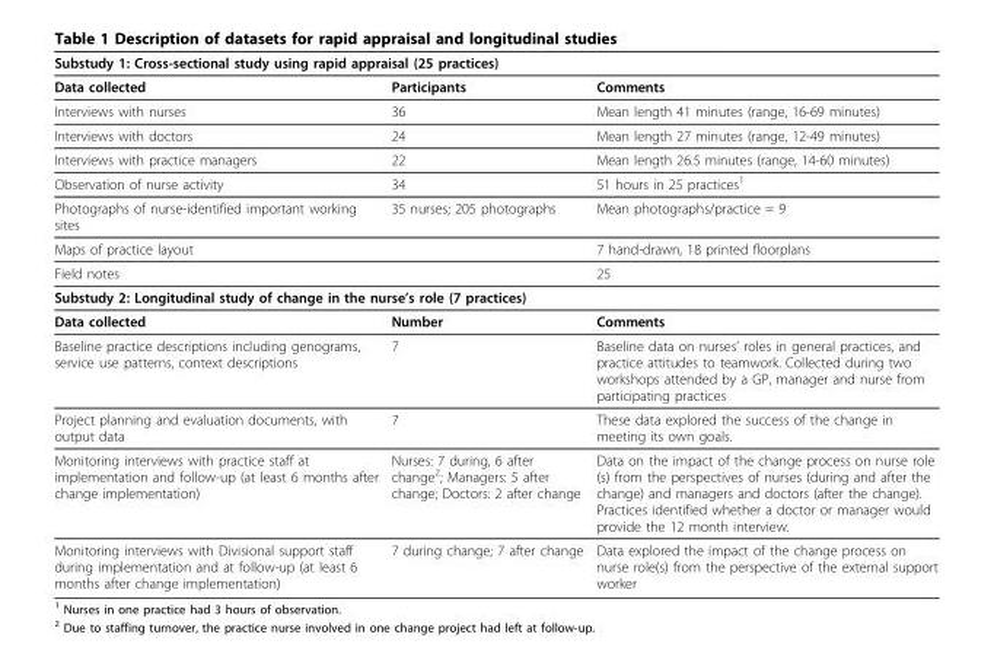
<table><thead><tr><td colspan="3">Substudy 1: Cross-sectional study using rapid appraisal (25 practices)</td></tr><tr><td>Data collected</td><td>Participants</td><td>Comments</td></tr></thead><tbody><tr><td>Interviews with nurses</td><td>36</td><td>Mean length 41 minutes (range, 16-69 minutes)</td></tr><tr><td>Interviews with doctors</td><td>24</td><td>Mean length 27 minutes (range, 12-49 minutes)</td></tr><tr><td>Interviews with practice managers</td><td>22</td><td>Mean length 26.5 minutes (range, 14-60 minutes)</td></tr><tr><td>Observation of nurse activity</td><td>34</td><td>51 hours in 25 practices<sup>1</sup></td></tr><tr><td>Photographs of nurse-identified important working sites</td><td>35 nurses; 205 photographs</td><td>Mean photographs/practice = 9</td></tr><tr><td>Maps of practice layout</td><td></td><td>7 hand-drawn, 18 printed floorplans</td></tr><tr><td>Field notes</td><td></td><td>25</td></tr><tr><td colspan="3">Substudy 2: Longitudinal study of change in the nurse’s role (7 practices)</td></tr><tr><td>Data collected</td><td>Number</td><td>Comments</td></tr><tr><td>Baseline practice descriptions including genograms, service use patterns, context descriptions</td><td>7</td><td>Baseline data on nurses’ roles in general practices, and practice attitudes to teamwork. Collected during two workshops attended by a GP, manager and nurse from participating practices</td></tr><tr><td>Project planning and evaluation documents, with output data</td><td>7</td><td>These data explored the success of the change in meeting its own goals.</td></tr><tr><td>Monitoring interviews with practice staff at implementation and follow-up (at least 6 months after change implementation)</td><td>Nurses: 7 during, 6 after change<sup>2</sup>; Managers: 5 after change; Doctors: 2 after change</td><td>Data on the impact of the change process on nurse role (s) from the perspectives of nurses (during and after the change) and managers and doctors (after the change). Practices identified whether a doctor or manager would provide the 12 month interview.</td></tr><tr><td>Monitoring interviews with Divisional support staff during implementation and at follow-up (at least 6 months after change implementation)</td><td>7 during change; 7 after change</td><td>Data explored the impact of the change process on nurse role(s) from the perspective of the external support worker</td></tr></tbody></table>